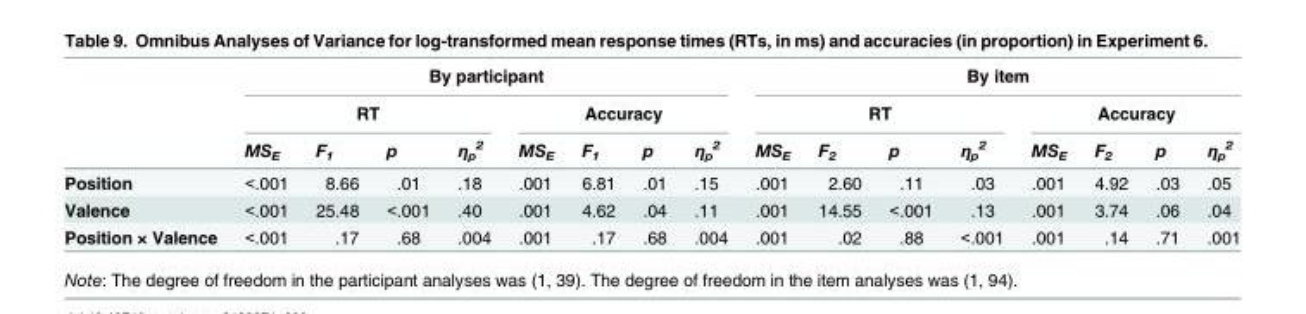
<table><thead><tr><td rowspan="3"></td><td colspan="8">By participant</td><td colspan="8">By item</td></tr><tr><td colspan="4">RT</td><td colspan="4">Accuracy</td><td colspan="4">RT</td><td colspan="4">Accuracy</td></tr><tr><td>MS<sub>E</sub></td><td>F<sub>1</sub></td><td>p</td><td>η<sub>p</sub> <sup>2</sup></td><td>MS<sub>E</sub></td><td>F<sub>1</sub></td><td>p</td><td>η<sub>p</sub> <sup>2</sup></td><td>MS<sub>E</sub></td><td>F<sub>2</sub></td><td>p</td><td>η<sub>p</sub> <sup>2</sup></td><td>MS<sub>E</sub></td><td>F<sub>2</sub></td><td>p</td><td>η<sub>p</sub> <sup>2</sup></td></tr></thead><tbody><tr><td>Position</td><td>&lt;.001</td><td>8.66</td><td>.01</td><td>.18</td><td>.001</td><td>6.81</td><td>.01</td><td>.15</td><td>.001</td><td>2.60</td><td>.11</td><td>.03</td><td>.001</td><td>4.92</td><td>.03</td><td>.05</td></tr><tr><td>Valence</td><td>&lt;.001</td><td>25.48</td><td>&lt;.001</td><td>.40</td><td>.001</td><td>4.62</td><td>.04</td><td>.11</td><td>.001</td><td>14.55</td><td>&lt;.001</td><td>.13</td><td>.001</td><td>3.74</td><td>.06</td><td>.04</td></tr><tr><td>Position × Valence</td><td>&lt;.001</td><td>.17</td><td>.68</td><td>.004</td><td>.001</td><td>.17</td><td>.68</td><td>.004</td><td>.001</td><td>.02</td><td>.88</td><td>&lt;.001</td><td>.001</td><td>.14</td><td>.71</td><td>.001</td></tr></tbody></table>